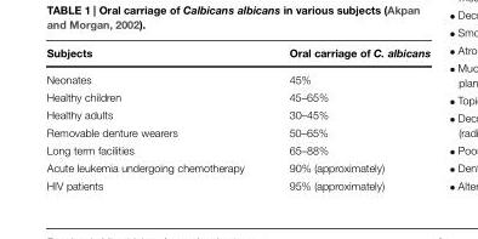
<table><thead><tr><td>Subjects</td><td>Oral carriage of C. albicans</td></tr></thead><tbody><tr><td>Neonates</td><td>45%</td></tr><tr><td>Healthy children</td><td>45–65%</td></tr><tr><td>Healthy adults</td><td>30–45%</td></tr><tr><td>Removable denture wearers</td><td>50–65%</td></tr><tr><td>Long term facilities</td><td>65–88%</td></tr><tr><td>Acute leukemia undergoing chemotherapy</td><td>90% (approximately)</td></tr><tr><td>HIV patients</td><td>95% (approximately)</td></tr></tbody></table>